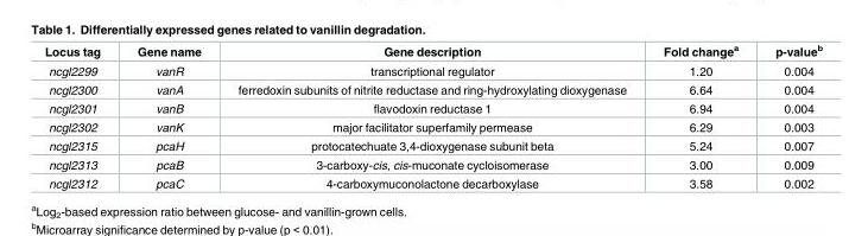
<table><thead><tr><td>Locus tag</td><td>Gene name</td><td>Gene description</td><td>Fold change<sup>a</sup></td><td>p-value<sup>b</sup></td></tr></thead><tbody><tr><td>ncgl2299</td><td>vanR</td><td>transcriptional regulator</td><td>1.20</td><td>0.004</td></tr><tr><td>ncgl2300</td><td>vanA</td><td>ferredoxin subunits of nitrite reductase and ring-hydroxylating dioxygenase</td><td>6.64</td><td>0.004</td></tr><tr><td>ncgl2301</td><td>vanB</td><td>flavodoxin reductase 1</td><td>6.94</td><td>0.004</td></tr><tr><td>ncgl2302</td><td>vanK</td><td>major facilitator superfamily permease</td><td>6.29</td><td>0.003</td></tr><tr><td>ncgl2315</td><td>pcaH</td><td>protocatechuate 3,4-dioxygenase subunit beta</td><td>5.24</td><td>0.007</td></tr><tr><td>ncgl2313</td><td>pcaB</td><td>3-carboxy-cis, cis-muconate cycloisomerase</td><td>3.00</td><td>0.009</td></tr><tr><td>ncgl2312</td><td>pcaC</td><td>4-carboxymuconolactone decarboxylase</td><td>3.58</td><td>0.002</td></tr></tbody></table>